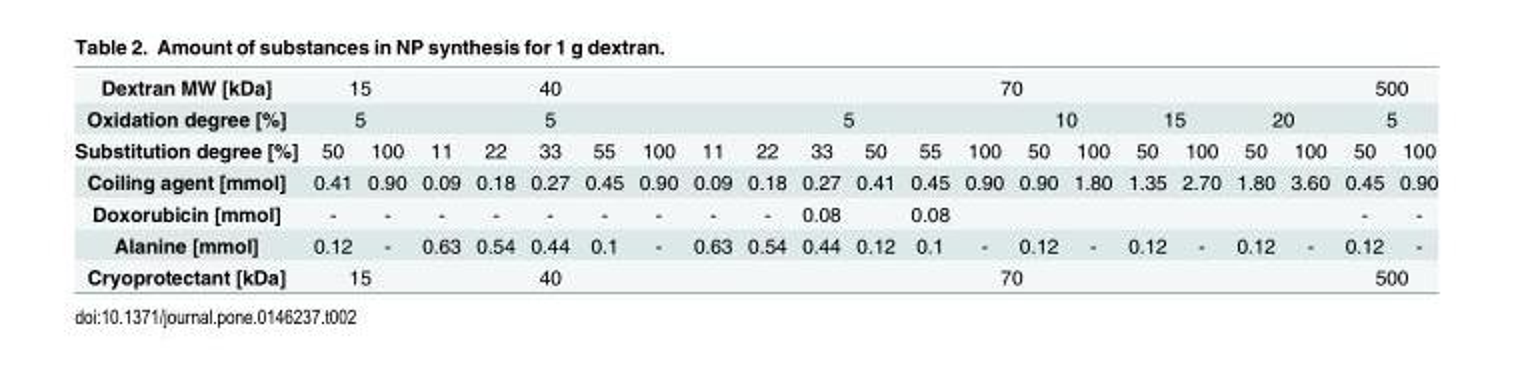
<table><tbody><tr><td>Dextran MW [kDa]</td><td colspan="2">15</td><td colspan="5">40</td><td colspan="12">70</td><td colspan="2">500</td></tr><tr><td>Oxidation degree [%]</td><td colspan="2">5</td><td colspan="5">5</td><td colspan="6">5</td><td colspan="2">10</td><td colspan="2">15</td><td colspan="2">20</td><td colspan="2">5</td></tr><tr><td>Substitution degree [%]</td><td>50</td><td>100</td><td>11</td><td>22</td><td>33</td><td>55</td><td>100</td><td>11</td><td>22</td><td>33</td><td>50</td><td>55</td><td>100</td><td>50</td><td>100</td><td>50</td><td>100</td><td>50</td><td>100</td><td>50</td><td>100</td></tr><tr><td>Coiling agent [mmol]</td><td>0.41</td><td>0.90</td><td>0.09</td><td>0.18</td><td>0.27</td><td>0.45</td><td>0.90</td><td>0.09</td><td>0.18</td><td>0.27</td><td>0.41</td><td>0.45</td><td>0.90</td><td>0.90</td><td>1.80</td><td>1.35</td><td>2.70</td><td>1.80</td><td>3.60</td><td>0.45</td><td>0.90</td></tr><tr><td>Doxorubicin [mmol]</td><td>-</td><td>-</td><td>-</td><td>-</td><td>-</td><td>-</td><td>-</td><td>-</td><td>-</td><td>0.08</td><td></td><td>0.08</td><td></td><td></td><td></td><td></td><td></td><td></td><td></td><td>-</td><td>-</td></tr><tr><td>Alanine [mmol]</td><td>0.12</td><td>-</td><td>0.63</td><td>0.54</td><td>0.44</td><td>0.1</td><td>-</td><td>0.63</td><td>0.54</td><td>0.44</td><td>0.12</td><td>0.1</td><td>-</td><td>0.12</td><td>-</td><td>0.12</td><td>-</td><td>0.12</td><td>-</td><td>0.12</td><td>-</td></tr><tr><td>Cryoprotectant [kDa]</td><td colspan="2">15</td><td colspan="5">40</td><td colspan="12">70</td><td colspan="2">500</td></tr></tbody></table>